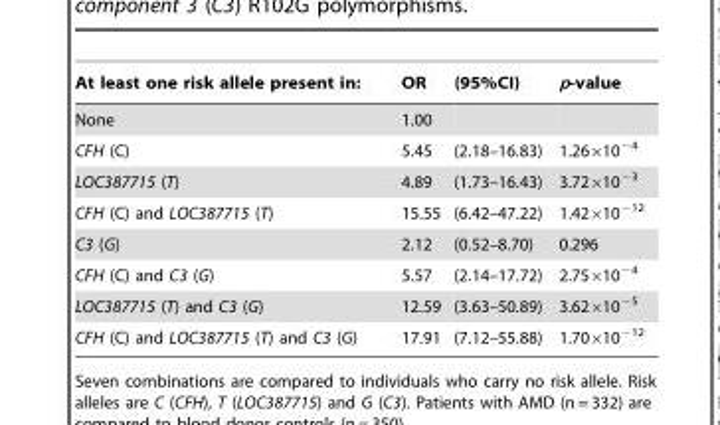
<table><thead><tr><td>At least one risk allele present in:</td><td>OR</td><td>(95%CI)</td><td>p-value</td></tr></thead><tbody><tr><td>None</td><td>1.00</td><td></td><td></td></tr><tr><td>CFH (C)</td><td>5.45</td><td>(2.18–16.83)</td><td>1.26×10<sup>−4</sup></td></tr><tr><td>LOC387715 (T)</td><td>4.89</td><td>(1.73–16.43)</td><td>3.72×10<sup>−3</sup></td></tr><tr><td>CFH (C) and LOC387715 (T)</td><td>15.55</td><td>(6.42–47.22)</td><td>1.42×10<sup>−12</sup></td></tr><tr><td>C3 (G)</td><td>2.12</td><td>(0.52–8.70)</td><td>0.296</td></tr><tr><td>CFH (C) and C3 (G)</td><td>5.57</td><td>(2.14–17.72)</td><td>2.75×10<sup>−4</sup></td></tr><tr><td>LOC387715 (T) and C3 (G)</td><td>12.59</td><td>(3.63–50.89)</td><td>3.62×10<sup>−5</sup></td></tr><tr><td>CFH (C) and LOC387715 (T) and C3 (G)</td><td>17.91</td><td>(7.12–55.88)</td><td>1.70×10<sup>−12</sup></td></tr></tbody></table>